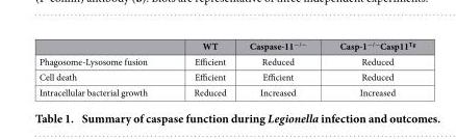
<table><thead><tr><td></td><td>WT</td><td>Caspase-11<sup>−/−</sup></td><td>Casp-1<sup>−/−</sup>Casp11<sup>Tg</sup></td></tr></thead><tbody><tr><td>Phagosome-Lysosome fusion</td><td>Efficient</td><td>Reduced</td><td>Reduced</td></tr><tr><td>Cell death</td><td>Efficient</td><td>Efficient</td><td>Reduced</td></tr><tr><td>Intracellular bacterial growth</td><td>Reduced</td><td>Increased</td><td>Increased</td></tr></tbody></table>